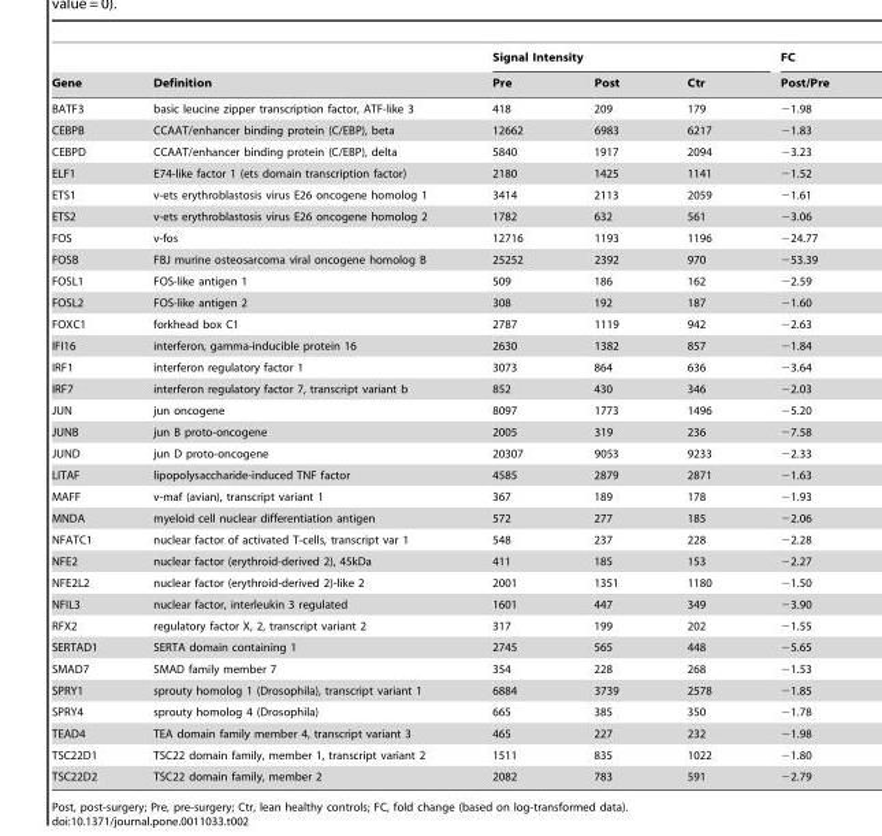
<table><thead><tr><td rowspan="2">Gene</td><td rowspan="2">Definition</td><td colspan="3">Signal Intensity</td><td rowspan="2">FC Post/Pre</td></tr><tr><td>Pre</td><td>Post</td><td>Ctr</td></tr></thead><tbody><tr><td>BATF3</td><td>basic leucine zipper transcription factor, ATF-like 3</td><td>418</td><td>209</td><td>179</td><td>−1.98</td></tr><tr><td>CEBPB</td><td>CCAAT/enhancer binding protein (C/EBP), beta</td><td>12662</td><td>6983</td><td>6217</td><td>−1.83</td></tr><tr><td>CEBPD</td><td>CCAAT/enhancer binding protein (C/EBP), delta</td><td>5840</td><td>1917</td><td>2094</td><td>−3.23</td></tr><tr><td>ELF1</td><td>E74-like factor 1 (ets domain transcription factor)</td><td>2180</td><td>1425</td><td>1141</td><td>−1.52</td></tr><tr><td>ETS1</td><td>v-ets erythroblastosis virus E26 oncogene homolog 1</td><td>3414</td><td>2113</td><td>2059</td><td>−1.61</td></tr><tr><td>ETS2</td><td>v-ets erythroblastosis virus E26 oncogene homolog 2</td><td>1782</td><td>632</td><td>561</td><td>−3.06</td></tr><tr><td>FOS</td><td>v-fos</td><td>12716</td><td>1193</td><td>1196</td><td>−24.77</td></tr><tr><td>FOSB</td><td>FBJ murine osteosarcoma viral oncogene homolog B</td><td>25252</td><td>2392</td><td>970</td><td>−53.39</td></tr><tr><td>FOSL1</td><td>FOS-like antigen 1</td><td>509</td><td>186</td><td>162</td><td>−2.59</td></tr><tr><td>FOSL2</td><td>FOS-like antigen 2</td><td>308</td><td>192</td><td>187</td><td>−1.60</td></tr><tr><td>FOXC1</td><td>forkhead box C1</td><td>2787</td><td>1119</td><td>942</td><td>−2.63</td></tr><tr><td>IFI16</td><td>interferon, gamma-inducible protein 16</td><td>2630</td><td>1382</td><td>857</td><td>−1.84</td></tr><tr><td>IRF1</td><td>interferon regulatory factor 1</td><td>3073</td><td>864</td><td>636</td><td>−3.64</td></tr><tr><td>IRF7</td><td>interferon regulatory factor 7, transcript variant b</td><td>852</td><td>430</td><td>346</td><td>−2.03</td></tr><tr><td>JUN</td><td>jun oncogene</td><td>8097</td><td>1773</td><td>1496</td><td>−5.20</td></tr><tr><td>JUNB</td><td>jun B proto-oncogene</td><td>2005</td><td>319</td><td>236</td><td>−7.58</td></tr><tr><td>JUND</td><td>jun D proto-oncogene</td><td>20307</td><td>9053</td><td>9233</td><td>−2.33</td></tr><tr><td>LITAF</td><td>lipopolysaccharide-induced TNF factor</td><td>4585</td><td>2879</td><td>2871</td><td>−1.63</td></tr><tr><td>MAFF</td><td>v-maf (avian), transcript variant 1</td><td>367</td><td>189</td><td>178</td><td>−1.93</td></tr><tr><td>MNDA</td><td>myeloid cell nuclear differentiation antigen</td><td>572</td><td>277</td><td>185</td><td>−2.06</td></tr><tr><td>NFATC1</td><td>nuclear factor of activated T-cells, transcript var 1</td><td>548</td><td>237</td><td>228</td><td>−2.28</td></tr><tr><td>NFE2</td><td>nuclear factor (erythroid-derived 2), 45kDa</td><td>411</td><td>185</td><td>153</td><td>−2.27</td></tr><tr><td>NFE2L2</td><td>nuclear factor (erythroid-derived 2)-like 2</td><td>2001</td><td>1351</td><td>1180</td><td>−1.50</td></tr><tr><td>NFIL3</td><td>nuclear factor, interleukin 3 regulated</td><td>1601</td><td>447</td><td>349</td><td>−3.90</td></tr><tr><td>RFX2</td><td>regulatory factor X, 2, transcript variant 2</td><td>317</td><td>199</td><td>202</td><td>−1.55</td></tr><tr><td>SERTAD1</td><td>SERTA domain containing 1</td><td>2745</td><td>565</td><td>448</td><td>−5.65</td></tr><tr><td>SMAD7</td><td>SMAD family member 7</td><td>354</td><td>228</td><td>268</td><td>−1.53</td></tr><tr><td>SPRY1</td><td>sprouty homolog 1 (Drosophila), transcript variant 1</td><td>6884</td><td>3739</td><td>2578</td><td>−1.85</td></tr><tr><td>SPRY4</td><td>sprouty homolog 4 (Drosophila)</td><td>665</td><td>385</td><td>350</td><td>−1.78</td></tr><tr><td>TEAD4</td><td>TEA domain family member 4, transcript variant 3</td><td>465</td><td>227</td><td>232</td><td>−1.98</td></tr><tr><td>TSC22D1</td><td>TSC22 domain family, member 1, transcript variant 2</td><td>1511</td><td>835</td><td>1022</td><td>−1.80</td></tr><tr><td>TSC22D2</td><td>TSC22 domain family, member 2</td><td>2082</td><td>783</td><td>591</td><td>−2.79</td></tr></tbody></table>